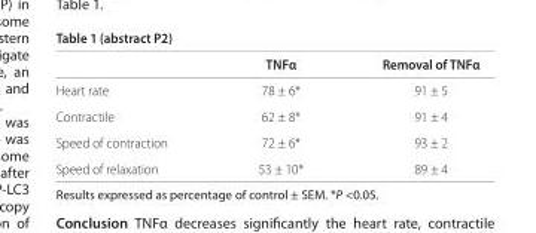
<table><thead><tr><td></td><td>TNFα</td><td>Removal of TNFα</td></tr></thead><tbody><tr><td>Heart rate</td><td>78 ± 6*</td><td>91 ± 5</td></tr><tr><td>Contractile</td><td>62 ± 8*</td><td>91 ± 4</td></tr><tr><td>Speed of contraction</td><td>72 ± 6*</td><td>93 ± 2</td></tr><tr><td>Speed of relaxation</td><td>53 ± 10*</td><td>89 ± 4</td></tr></tbody></table>